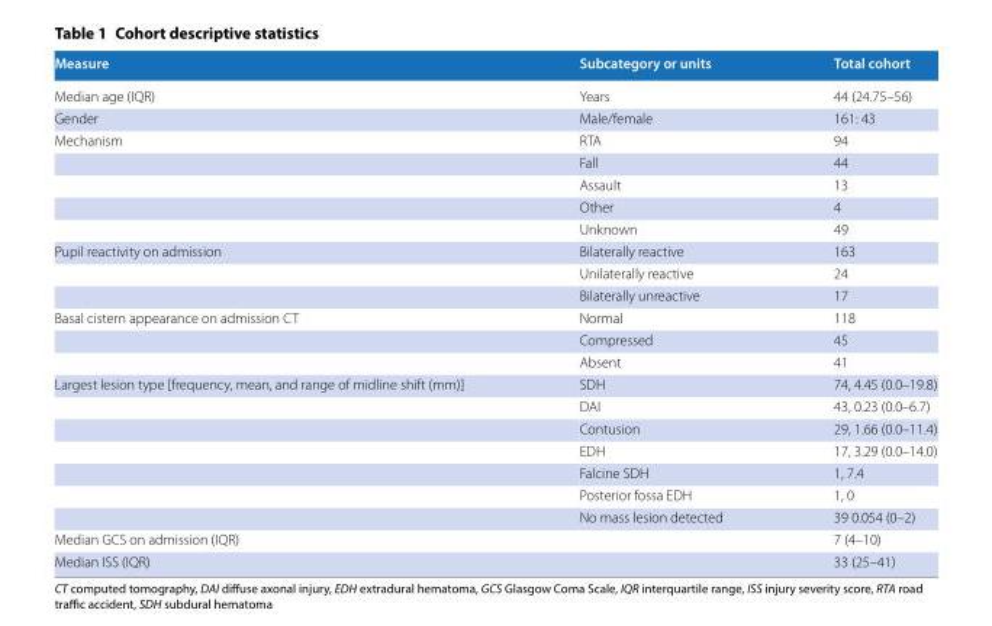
<table><thead><tr><td>Measure</td><td>Subcategory or units</td><td>Total cohort</td></tr></thead><tbody><tr><td>Median age (IQR)</td><td>Years</td><td>44 (24.75–56)</td></tr><tr><td>Gender</td><td>Male/female</td><td>161: 43</td></tr><tr><td rowspan="5">Mechanism</td><td>RTA</td><td>94</td></tr><tr><td>Fall</td><td>44</td></tr><tr><td>Assault</td><td>13</td></tr><tr><td>Other</td><td>4</td></tr><tr><td>Unknown</td><td>49</td></tr><tr><td rowspan="3">Pupil reactivity on admission</td><td>Bilaterally reactive</td><td>163</td></tr><tr><td>Unilaterally reactive</td><td>24</td></tr><tr><td>Bilaterally unreactive</td><td>17</td></tr><tr><td rowspan="3">Basal cistern appearance on admission CT</td><td>Normal</td><td>118</td></tr><tr><td>Compressed</td><td>45</td></tr><tr><td>Absent</td><td>41</td></tr><tr><td rowspan="7">Largest lesion type [frequency, mean, and range of midline shift (mm)]</td><td>SDH</td><td>74, 4.45 (0.0–19.8)</td></tr><tr><td>DAI</td><td>43, 0.23 (0.0–6.7)</td></tr><tr><td>Contusion</td><td>29, 1.66 (0.0–11.4)</td></tr><tr><td>EDH</td><td>17, 3.29 (0.0–14.0)</td></tr><tr><td>Falcine SDH</td><td>1, 7.4</td></tr><tr><td>Posterior fossa EDH</td><td>1, 0</td></tr><tr><td>No mass lesion detected</td><td>39 0.054 (0–2)</td></tr><tr><td>Median GCS on admission (IQR)</td><td></td><td>7 (4–10)</td></tr><tr><td>Median ISS (IQR)</td><td></td><td>33 (25–41)</td></tr></tbody></table>